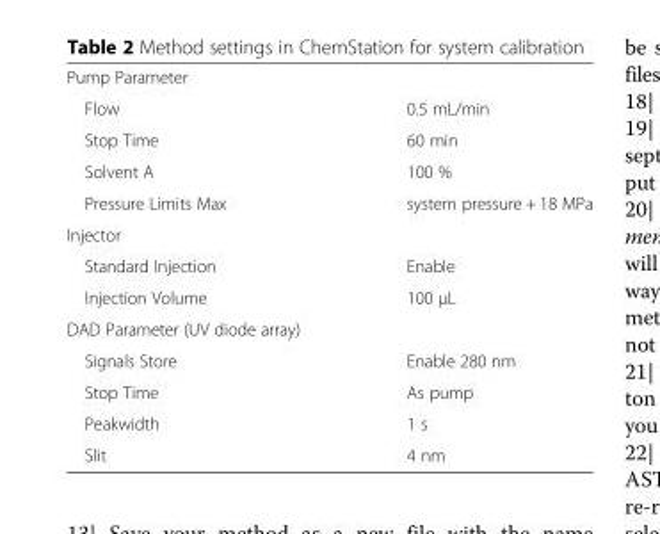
<table><tbody><tr><td colspan="2">Pump Parameter</td></tr><tr><td>Flow</td><td>0.5 mL/min</td></tr><tr><td>Stop Time</td><td>60 min</td></tr><tr><td>Solvent A</td><td>100 %</td></tr><tr><td>Pressure Limits Max</td><td>system pressure + 18 MPa</td></tr><tr><td colspan="2">Injector</td></tr><tr><td>Standard Injection</td><td>Enable</td></tr><tr><td>Injection Volume</td><td>100 μL</td></tr><tr><td colspan="2">DAD Parameter (UV diode array)</td></tr><tr><td>Signals Store</td><td>Enable 280 nm</td></tr><tr><td>Stop Time</td><td>As pump</td></tr><tr><td>Peakwidth</td><td>1 s</td></tr><tr><td>Slit</td><td>4 nm</td></tr></tbody></table>